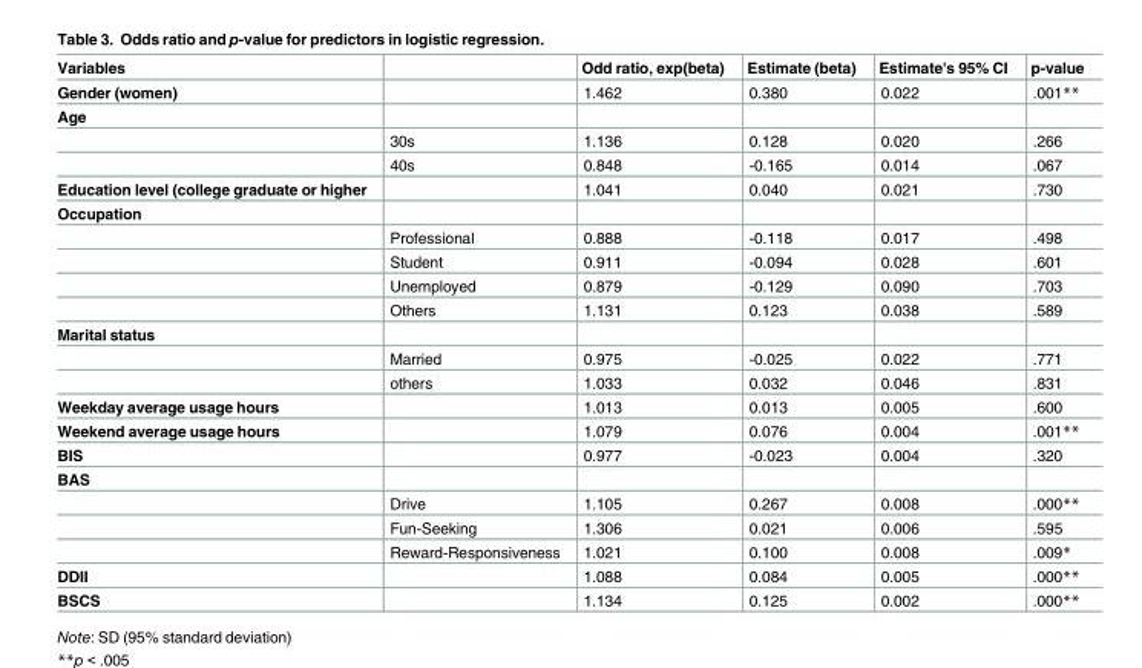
<table><thead><tr><td>Variables</td><td></td><td>Odd ratio, exp(beta)</td><td>Estimate (beta)</td><td>Estimate&#x27;s 95% CI</td><td>p-value</td></tr></thead><tbody><tr><td>Gender (women)</td><td></td><td>1.462</td><td>0.380</td><td>0.022</td><td>.001**</td></tr><tr><td colspan="6">Age</td></tr><tr><td></td><td>30s</td><td>1.136</td><td>0.128</td><td>0.020</td><td>.266</td></tr><tr><td></td><td>40s</td><td>0.848</td><td>-0.165</td><td>0.014</td><td>.067</td></tr><tr><td>Education level (college graduate or higher</td><td></td><td>1.041</td><td>0.040</td><td>0.021</td><td>.730</td></tr><tr><td colspan="6">Occupation</td></tr><tr><td></td><td>Professional</td><td>0.888</td><td>-0.118</td><td>0.017</td><td>.498</td></tr><tr><td></td><td>Student</td><td>0.911</td><td>-0.094</td><td>0.028</td><td>.601</td></tr><tr><td></td><td>Unemployed</td><td>0.879</td><td>-0.129</td><td>0.090</td><td>.703</td></tr><tr><td></td><td>Others</td><td>1.131</td><td>0.123</td><td>0.038</td><td>.589</td></tr><tr><td colspan="6">Marital status</td></tr><tr><td></td><td>Married</td><td>0.975</td><td>-0.025</td><td>0.022</td><td>.771</td></tr><tr><td></td><td>others</td><td>1.033</td><td>0.032</td><td>0.046</td><td>.831</td></tr><tr><td>Weekday average usage hours</td><td></td><td>1.013</td><td>0.013</td><td>0.005</td><td>.600</td></tr><tr><td>Weekend average usage hours</td><td></td><td>1.079</td><td>0.076</td><td>0.004</td><td>.001**</td></tr><tr><td>BIS</td><td></td><td>0.977</td><td>-0.023</td><td>0.004</td><td>.320</td></tr><tr><td colspan="6">BAS</td></tr><tr><td></td><td>Drive</td><td>1.105</td><td>0.267</td><td>0.008</td><td>.000**</td></tr><tr><td></td><td>Fun-Seeking</td><td>1.306</td><td>0.021</td><td>0.006</td><td>.595</td></tr><tr><td></td><td>Reward-Responsiveness</td><td>1.021</td><td>0.100</td><td>0.008</td><td>.009*</td></tr><tr><td>DDII</td><td></td><td>1.088</td><td>0.084</td><td>0.005</td><td>.000**</td></tr><tr><td>BSCS</td><td></td><td>1.134</td><td>0.125</td><td>0.002</td><td>.000**</td></tr></tbody></table>